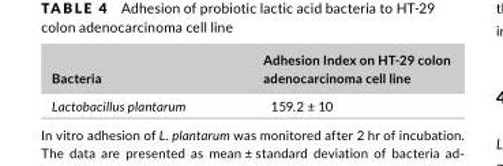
<table><thead><tr><td>Bacteria</td><td>Adhesion Index on HT- 29 colon adenocarcinoma cell line</td></tr></thead><tbody><tr><td>Lactobacillus plantarum</td><td>159.2 ± 10</td></tr></tbody></table>